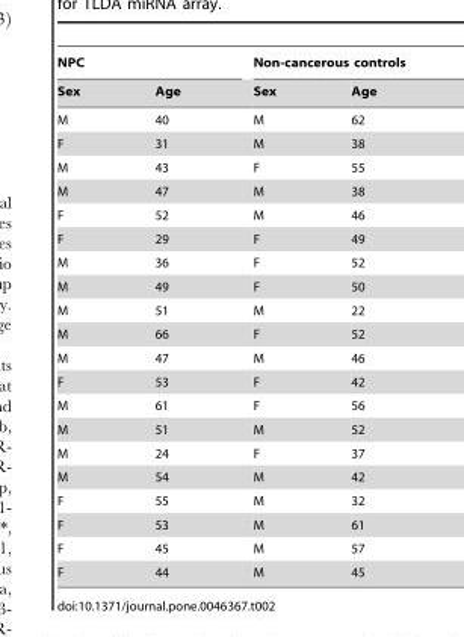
<table><thead><tr><td colspan="2">NPC</td><td colspan="2">Non-cancerous controls</td></tr><tr><td>Sex</td><td>Age</td><td>Sex</td><td>Age</td></tr></thead><tbody><tr><td>M</td><td>40</td><td>M</td><td>62</td></tr><tr><td>F</td><td>31</td><td>M</td><td>38</td></tr><tr><td>M</td><td>43</td><td>F</td><td>55</td></tr><tr><td>M</td><td>47</td><td>M</td><td>38</td></tr><tr><td>F</td><td>52</td><td>M</td><td>46</td></tr><tr><td>F</td><td>29</td><td>F</td><td>49</td></tr><tr><td>M</td><td>36</td><td>F</td><td>52</td></tr><tr><td>M</td><td>49</td><td>F</td><td>50</td></tr><tr><td>M</td><td>51</td><td>M</td><td>22</td></tr><tr><td>M</td><td>66</td><td>F</td><td>52</td></tr><tr><td>M</td><td>47</td><td>M</td><td>46</td></tr><tr><td>F</td><td>53</td><td>F</td><td>42</td></tr><tr><td>M</td><td>61</td><td>F</td><td>56</td></tr><tr><td>M</td><td>51</td><td>M</td><td>52</td></tr><tr><td>M</td><td>24</td><td>F</td><td>37</td></tr><tr><td>M</td><td>54</td><td>M</td><td>42</td></tr><tr><td>F</td><td>55</td><td>M</td><td>32</td></tr><tr><td>F</td><td>53</td><td>M</td><td>61</td></tr><tr><td>F</td><td>45</td><td>M</td><td>57</td></tr><tr><td>F</td><td>44</td><td>M</td><td>45</td></tr></tbody></table>